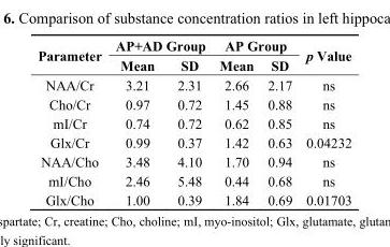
<table><thead><tr><td rowspan="2">Parameter</td><td colspan="2">AP+AD Group</td><td colspan="2">AP Group</td><td rowspan="2">p Value</td></tr><tr><td>Mean</td><td>SD</td><td>Mean</td><td>SD</td></tr></thead><tbody><tr><td>NAA/Cr</td><td>3.21</td><td>2.31</td><td>2.66</td><td>2.17</td><td>ns</td></tr><tr><td>Cho/Cr</td><td>0.97</td><td>0.72</td><td>1.45</td><td>0.88</td><td>ns</td></tr><tr><td>mI/Cr</td><td>0.74</td><td>0.72</td><td>0.62</td><td>0.85</td><td>ns</td></tr><tr><td>Glx/Cr</td><td>0.99</td><td>0.37</td><td>1.42</td><td>0.63</td><td>0.04232</td></tr><tr><td>NAA/Cho</td><td>3.48</td><td>4.10</td><td>1.70</td><td>0.94</td><td>ns</td></tr><tr><td>mI/Cho</td><td>2.46</td><td>5.48</td><td>0.44</td><td>0.68</td><td>ns</td></tr><tr><td>Glx/Cho</td><td>1.00</td><td>0.39</td><td>1.84</td><td>0.69</td><td>0.01703</td></tr></tbody></table>